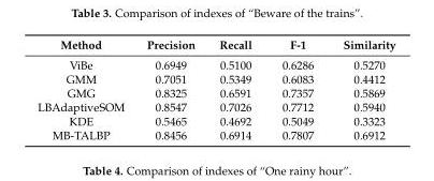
<table><thead><tr><td>Method</td><td>Precision</td><td>Recall</td><td>F-1</td><td>Similarity</td></tr></thead><tbody><tr><td>ViBe</td><td>0.6949</td><td>0.5100</td><td>0.6286</td><td>0.5270</td></tr><tr><td>GMM</td><td>0.7051</td><td>0.5349</td><td>0.6083</td><td>0.4412</td></tr><tr><td>GMG</td><td>0.8325</td><td>0.6591</td><td>0.7357</td><td>0.5869</td></tr><tr><td>LBAdaptiveSOM</td><td>0.8547</td><td>0.7026</td><td>0.7712</td><td>0.5940</td></tr><tr><td>KDE</td><td>0.5465</td><td>0.4692</td><td>0.5049</td><td>0.3323</td></tr><tr><td>MB-TALBP</td><td>0.8456</td><td>0.6914</td><td>0.7807</td><td>0.6912</td></tr></tbody></table>